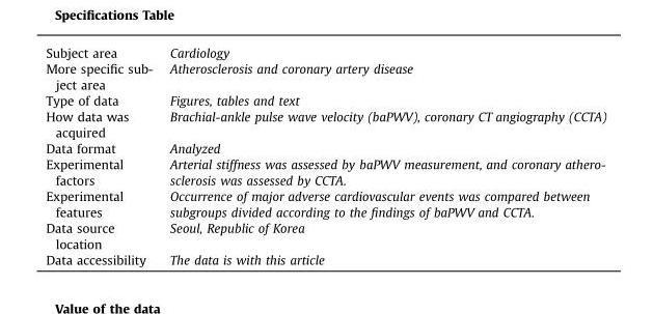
<table><tbody><tr><td>Subject area</td><td>Cardiology</td></tr><tr><td>More specific sub- ject area</td><td>Atherosclerosis and coronary artery disease</td></tr><tr><td>Type of data</td><td>Figures, tables and text</td></tr><tr><td>How data was acquired</td><td>Brachial-ankle pulse wave velocity (baPWV), coronary CT angiography (CCTA)</td></tr><tr><td>Data format</td><td>Analyzed</td></tr><tr><td>Experimental factors</td><td>Arterial stiffness was assessed by baPWV measurement, and coronary athero- sclerosis was assessed by CCTA.</td></tr><tr><td>Experimental features</td><td>Occurrence of major adverse cardiovascular events was compared between subgroups divided according to the findings of baPWV and CCTA.</td></tr><tr><td>Data source location</td><td>Seoul, Republic of Korea</td></tr><tr><td>Data accessibility</td><td>The data is with this article</td></tr></tbody></table>